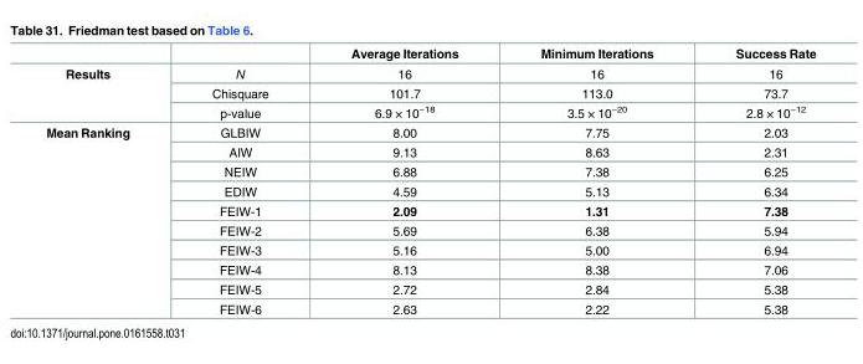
<table><thead><tr><td></td><td></td><td>Average Iterations</td><td>Minimum Iterations</td><td>Success Rate</td></tr></thead><tbody><tr><td rowspan="3">Results</td><td>N</td><td>16</td><td>16</td><td>16</td></tr><tr><td>Chisquare</td><td>101.7</td><td>113.0</td><td>73.7</td></tr><tr><td>p-value</td><td>6.9 × 10<sup>−18</sup></td><td>3.5 × 10<sup>−20</sup></td><td>2.8 × 10<sup>−12</sup></td></tr><tr><td rowspan="10">Mean Ranking</td><td>GLBIW</td><td>8.00</td><td>7.75</td><td>2.03</td></tr><tr><td>AIW</td><td>9.13</td><td>8.63</td><td>2.31</td></tr><tr><td>NEIW</td><td>6.88</td><td>7.38</td><td>6.25</td></tr><tr><td>EDIW</td><td>4.59</td><td>5.13</td><td>6.34</td></tr><tr><td>FEIW-1</td><td>2.09</td><td>1.31</td><td>7.38</td></tr><tr><td>FEIW-2</td><td>5.69</td><td>6.38</td><td>5.94</td></tr><tr><td>FEIW-3</td><td>5.16</td><td>5.00</td><td>6.94</td></tr><tr><td>FEIW-4</td><td>8.13</td><td>8.38</td><td>7.06</td></tr><tr><td>FEIW-5</td><td>2.72</td><td>2.84</td><td>5.38</td></tr><tr><td>FEIW-6</td><td>2.63</td><td>2.22</td><td>5.38</td></tr></tbody></table>